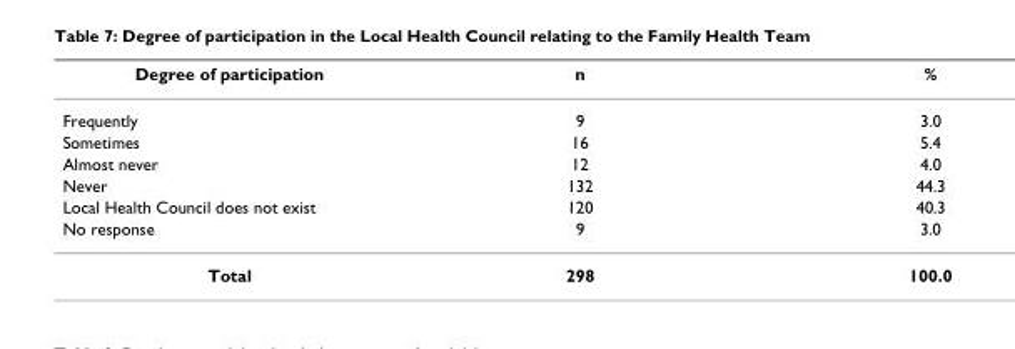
<table><thead><tr><td>Degree of participation</td><td>n</td><td>%</td></tr></thead><tbody><tr><td>Frequently</td><td>9</td><td>3.0</td></tr><tr><td>Sometimes</td><td>16</td><td>5.4</td></tr><tr><td>Almost never</td><td>12</td><td>4.0</td></tr><tr><td>Never</td><td>132</td><td>44.3</td></tr><tr><td>Local Health Council does not exist</td><td>120</td><td>40.3</td></tr><tr><td>No response</td><td>9</td><td>3.0</td></tr><tr><td>Total</td><td>298</td><td>100.0</td></tr></tbody></table>